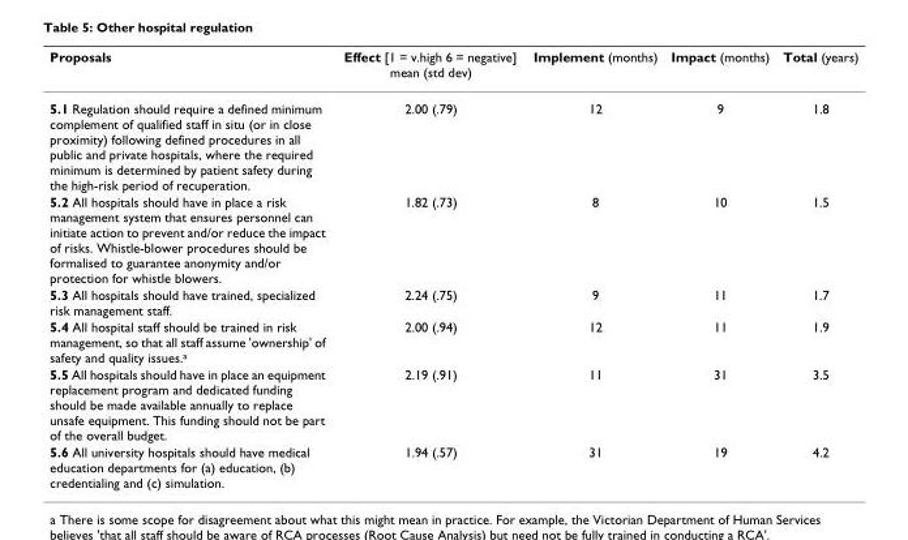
<table><thead><tr><td>Proposals</td><td>Effect [1 = v.high 6 = negative] mean (std dev)</td><td>Implement (months)</td><td>Impact (months)</td><td>Total (years)</td></tr></thead><tbody><tr><td>5.1 Regulation should require a defined minimum complement of qualified staff in situ (or in close proximity) following defined procedures in all public and private hospitals, where the required minimum is determined by patient safety during the high-risk period of recuperation.</td><td>2.00 (.79)</td><td>12</td><td>9</td><td>1.8</td></tr><tr><td>5.2 All hospitals should have in place a risk management system that ensures personnel can initiate action to prevent and/or reduce the impact of risks. Whistle-blower procedures should be formalised to guarantee anonymity and/or protection for whistle blowers.</td><td>1.82 (.73)</td><td>8</td><td>10</td><td>1.5</td></tr><tr><td>5.3 All hospitals should have trained, specialized risk management staff.</td><td>2.24 (.75)</td><td>9</td><td>11</td><td>1.7</td></tr><tr><td>5.4 All hospital staff should be trained in risk management, so that all staff assume &#x27;ownership&#x27; of safety and quality issues.<sup>a</sup></td><td>2.00 (.94)</td><td>12</td><td>11</td><td>1.9</td></tr><tr><td>5.5 All hospitals should have in place an equipment replacement program and dedicated funding should be made available annually to replace unsafe equipment. This funding should not be part of the overall budget.</td><td>2.19 (.91)</td><td>11</td><td>31</td><td>3.5</td></tr><tr><td>5.6 All university hospitals should have medical education departments for (a) education, (b) credentialing and (c) simulation.</td><td>1.94 (.57)</td><td>31</td><td>19</td><td>4.2</td></tr></tbody></table>